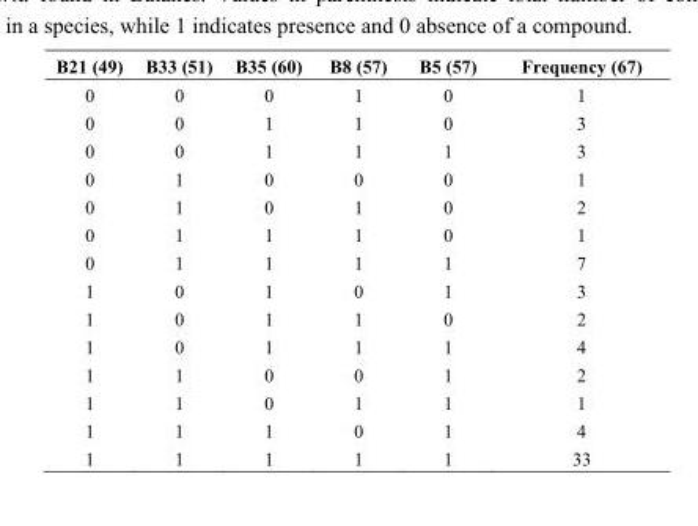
<table><thead><tr><td>B21 (49)</td><td>B33 (51)</td><td>B35 (60)</td><td>B8 (57)</td><td>B5 (57)</td><td>Frequency (67)</td></tr></thead><tbody><tr><td>0</td><td>0</td><td>0</td><td>1</td><td>0</td><td>1</td></tr><tr><td>0</td><td>0</td><td>1</td><td>1</td><td>0</td><td>3</td></tr><tr><td>0</td><td>0</td><td>1</td><td>1</td><td>1</td><td>3</td></tr><tr><td>0</td><td>1</td><td>0</td><td>0</td><td>0</td><td>1</td></tr><tr><td>0</td><td>1</td><td>0</td><td>1</td><td>0</td><td>2</td></tr><tr><td>0</td><td>1</td><td>1</td><td>1</td><td>0</td><td>1</td></tr><tr><td>0</td><td>1</td><td>1</td><td>1</td><td>1</td><td>7</td></tr><tr><td>1</td><td>0</td><td>1</td><td>0</td><td>1</td><td>3</td></tr><tr><td>1</td><td>0</td><td>1</td><td>1</td><td>0</td><td>2</td></tr><tr><td>1</td><td>0</td><td>1</td><td>1</td><td>1</td><td>4</td></tr><tr><td>1</td><td>1</td><td>0</td><td>0</td><td>1</td><td>2</td></tr><tr><td>1</td><td>1</td><td>0</td><td>1</td><td>1</td><td>1</td></tr><tr><td>1</td><td>1</td><td>1</td><td>0</td><td>1</td><td>4</td></tr><tr><td>1</td><td>1</td><td>1</td><td>1</td><td>1</td><td>33</td></tr></tbody></table>